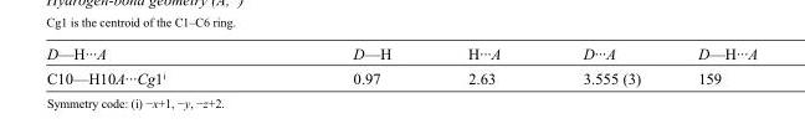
<table><tbody><tr><td>D—H···A</td><td>D—H</td><td>H···A</td><td>D···A</td><td>D—H···A</td></tr><tr><td>C10—H10A···Cg1<sup>i</sup></td><td>0.97</td><td>2.63</td><td>3.555 (3)</td><td>159</td></tr></tbody></table>